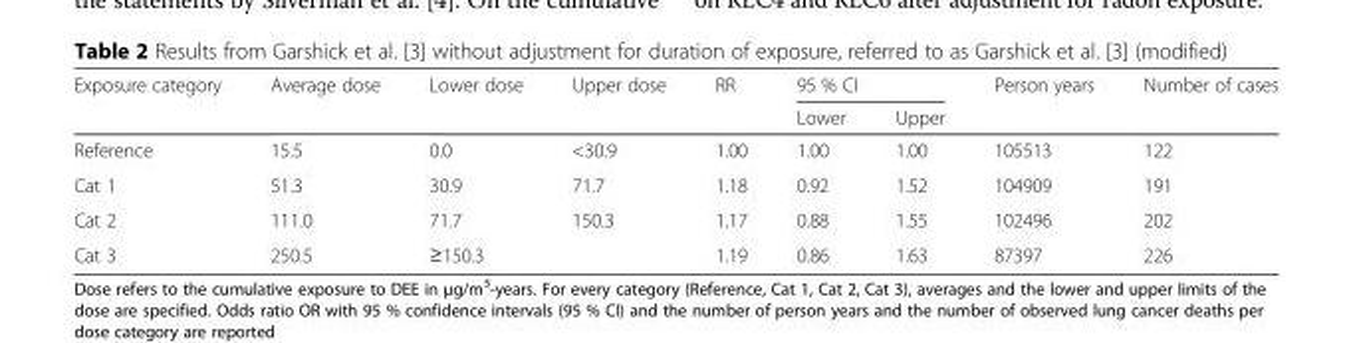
<table><thead><tr><td rowspan="2">Exposure category</td><td rowspan="2">Average dose</td><td rowspan="2">Lower dose</td><td rowspan="2">Upper dose</td><td rowspan="2">RR</td><td colspan="2">95 % CI</td><td rowspan="2">Person years</td><td rowspan="2">Number of cases</td></tr><tr><td>Lower</td><td>Upper</td></tr></thead><tbody><tr><td>Reference</td><td>15.5</td><td>0.0</td><td>&lt;30.9</td><td>1.00</td><td>1.00</td><td>1.00</td><td>105513</td><td>122</td></tr><tr><td>Cat 1</td><td>51.3</td><td>30.9</td><td>71.7</td><td>1.18</td><td>0.92</td><td>1.52</td><td>104909</td><td>191</td></tr><tr><td>Cat 2</td><td>111.0</td><td>71.7</td><td>150.3</td><td>1.17</td><td>0.88</td><td>1.55</td><td>102496</td><td>202</td></tr><tr><td>Cat 3</td><td>250.5</td><td>≥150.3</td><td></td><td>1.19</td><td>0.86</td><td>1.63</td><td>87397</td><td>226</td></tr></tbody></table>